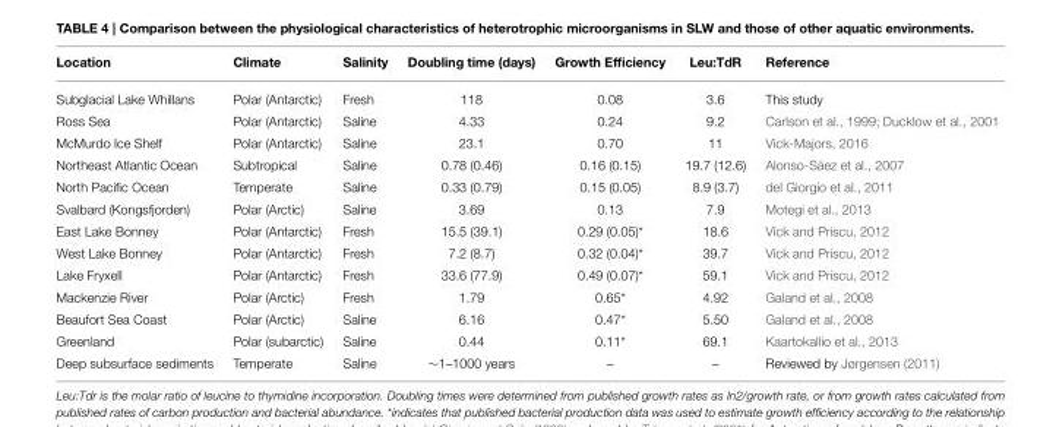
<table><thead><tr><td>Location</td><td>Climate</td><td>Salinity</td><td>Doubling time (days)</td><td>Growth Efficiency</td><td>Leu:TdR</td><td>Reference</td></tr></thead><tbody><tr><td>Subglacial Lake Whillans</td><td>Polar (Antarctic)</td><td>Fresh</td><td>118</td><td>0.08</td><td>3.6</td><td>This study</td></tr><tr><td>Ross Sea</td><td>Polar (Antarctic)</td><td>Saline</td><td>4.33</td><td>0.24</td><td>9.2</td><td>Carlson et al., 1999; Ducklow et al., 2001</td></tr><tr><td>McMurdo Ice Shelf</td><td>Polar (Antarctic)</td><td>Saline</td><td>23.1</td><td>0.70</td><td>11</td><td>Vick-Majors, 2016</td></tr><tr><td>Northeast Atlantic Ocean</td><td>Subtropical</td><td>Saline</td><td>0.78 (0.46)</td><td>0.16 (0.15)</td><td>19.7 (12.6)</td><td>Alonso-Sáez et al., 2007</td></tr><tr><td>North Pacific Ocean</td><td>Temperate</td><td>Saline</td><td>0.33 (0.79)</td><td>0.15 (0.05)</td><td>8.9 (3.7)</td><td>del Giorgio et al., 2011</td></tr><tr><td>Svalbard (Kongsfjorden)</td><td>Polar (Arctic)</td><td>Saline</td><td>3.69</td><td>0.13</td><td>7.9</td><td>Motegi et al., 2013</td></tr><tr><td>East Lake Bonney</td><td>Polar (Antarctic)</td><td>Fresh</td><td>15.5 (39.1)</td><td>0.29 (0.05)*</td><td>18.6</td><td>Vick and Priscu, 2012</td></tr><tr><td>West Lake Bonney</td><td>Polar (Antarctic)</td><td>Fresh</td><td>7.2 (8.7)</td><td>0.32 (0.04)*</td><td>39.7</td><td>Vick and Priscu, 2012</td></tr><tr><td>Lake Fryxell</td><td>Polar (Antarctic)</td><td>Fresh</td><td>33.6 (77.9)</td><td>0.49 (0.07)*</td><td>59.1</td><td>Vick and Priscu, 2012</td></tr><tr><td>Mackenzie River</td><td>Polar (Arctic)</td><td>Fresh</td><td>1.79</td><td>0.65*</td><td>4.92</td><td>Galand et al., 2008</td></tr><tr><td>Beaufort Sea Coast</td><td>Polar (Arctic)</td><td>Saline</td><td>6.16</td><td>0.47*</td><td>5.50</td><td>Galand et al., 2008</td></tr><tr><td>Greenland</td><td>Polar (subarctic)</td><td>Saline</td><td>0.44</td><td>0.11*</td><td>69.1</td><td>Kaartokallio et al., 2013</td></tr><tr><td>Deep subsurface sediments</td><td>Temperate</td><td>Saline</td><td>∼1–1000 years</td><td>–</td><td>–</td><td>Reviewed by Jørgensen (2011)</td></tr></tbody></table>